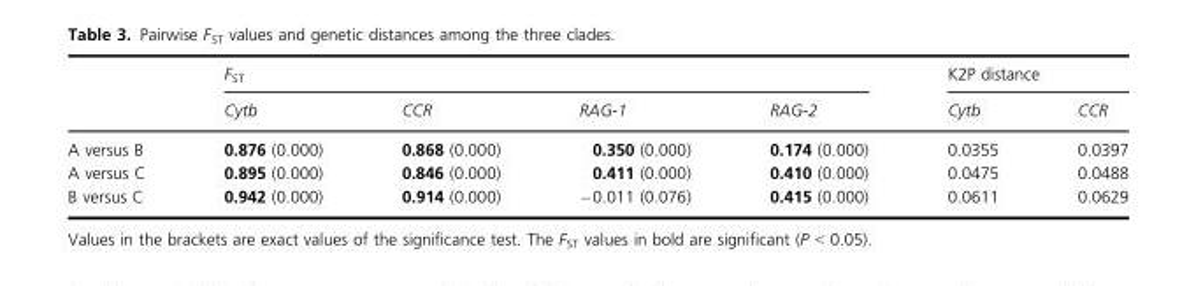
<table><thead><tr><td rowspan="2"></td><td colspan="4">F<sub>ST</sub></td><td colspan="2">K2P distance</td></tr><tr><td>Cytb</td><td>CCR</td><td>RAG-1</td><td>RAG-2</td><td>Cytb</td><td>CCR</td></tr></thead><tbody><tr><td>A versus B</td><td>0.876 (0.000)</td><td>0.868 (0.000)</td><td>0.350 (0.000)</td><td>0.174 (0.000)</td><td>0.0355</td><td>0.0397</td></tr><tr><td>A versus C</td><td>0.895 (0.000)</td><td>0.846 (0.000)</td><td>0.411 (0.000)</td><td>0.410 (0.000)</td><td>0.0475</td><td>0.0488</td></tr><tr><td>B versus C</td><td>0.942 (0.000)</td><td>0.914 (0.000)</td><td>−0.011 (0.076)</td><td>0.415 (0.000)</td><td>0.0611</td><td>0.0629</td></tr></tbody></table>